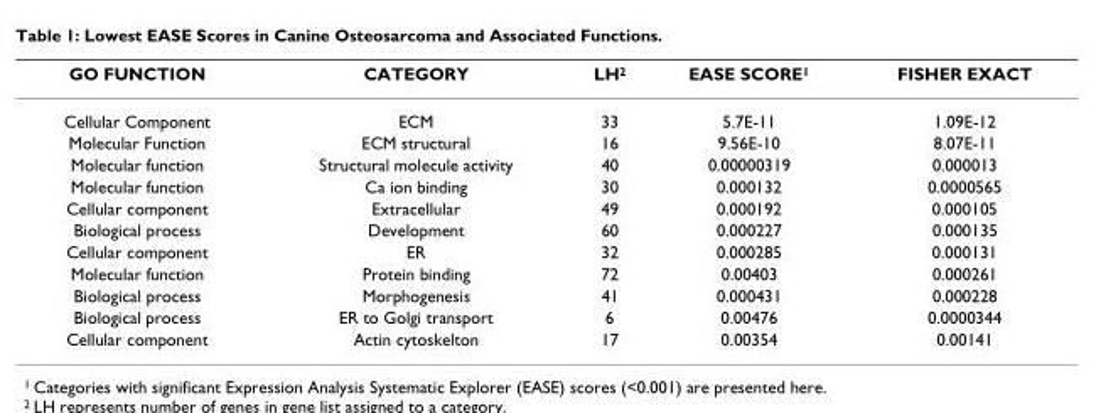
<table><thead><tr><td>GO FUNCTION</td><td>CATEGORY</td><td>LH<sup>2</sup></td><td>EASE SCORE<sup>1</sup></td><td>FISHER EXACT</td></tr></thead><tbody><tr><td>Cellular Component</td><td>ECM</td><td>33</td><td>5.7E-11</td><td>1.09E-12</td></tr><tr><td>Molecular Function</td><td>ECM structural</td><td>16</td><td>9.56E-10</td><td>8.07E-11</td></tr><tr><td>Molecular function</td><td>Structural molecule activity</td><td>40</td><td>0.00000319</td><td>0.000013</td></tr><tr><td>Molecular function</td><td>Ca ion binding</td><td>30</td><td>0.000132</td><td>0.0000565</td></tr><tr><td>Cellular component</td><td>Extracellular</td><td>49</td><td>0.000192</td><td>0.000105</td></tr><tr><td>Biological process</td><td>Development</td><td>60</td><td>0.000227</td><td>0.000135</td></tr><tr><td>Cellular component</td><td>ER</td><td>32</td><td>0.000285</td><td>0.000131</td></tr><tr><td>Molecular function</td><td>Protein binding</td><td>72</td><td>0.00403</td><td>0.000261</td></tr><tr><td>Biological process</td><td>Morphogenesis</td><td>41</td><td>0.000431</td><td>0.000228</td></tr><tr><td>Biological process</td><td>ER to Golgi transport</td><td>6</td><td>0.00476</td><td>0.0000344</td></tr><tr><td>Cellular component</td><td>Actin cytoskelton</td><td>17</td><td>0.00354</td><td>0.00141</td></tr></tbody></table>